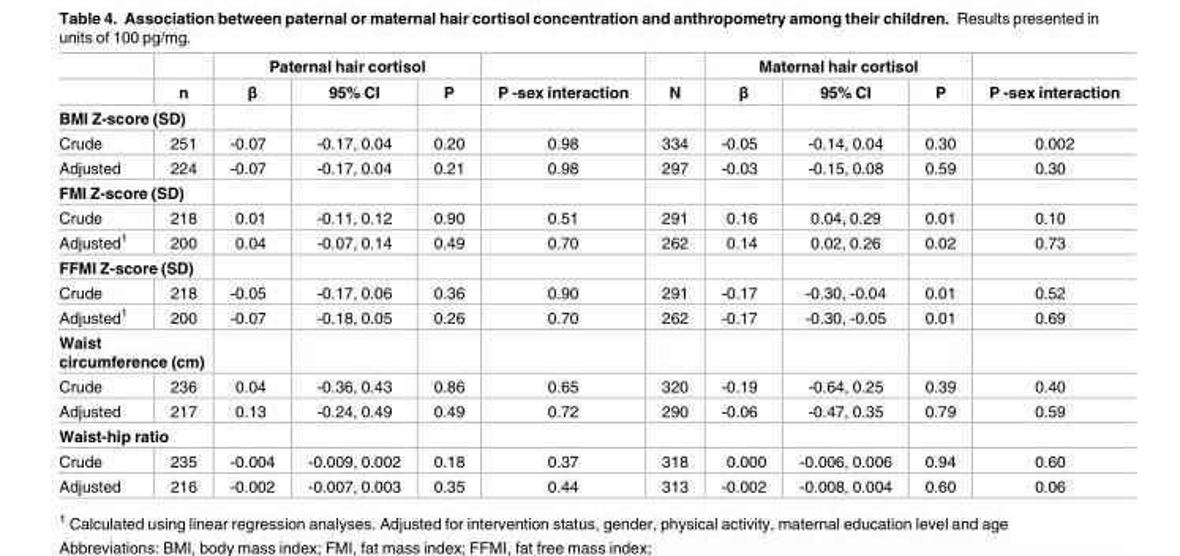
<table><thead><tr><td rowspan="2"></td><td rowspan="2">n</td><td colspan="3">Paternal hair cortisol</td><td rowspan="2">P -sex interaction</td><td rowspan="2">N</td><td colspan="3">Maternal hair cortisol</td><td rowspan="2">P -sex interaction</td></tr><tr><td>β</td><td>95% CI</td><td>P</td><td>β</td><td>95% CI</td><td>P</td></tr></thead><tbody><tr><td colspan="11">BMI Z-score (SD)</td></tr><tr><td>Crude</td><td>251</td><td>-0.07</td><td>-0.17, 0.04</td><td>0.20</td><td>0.98</td><td>334</td><td>-0.05</td><td>-0.14, 0.04</td><td>0.30</td><td>0.002</td></tr><tr><td>Adjusted</td><td>224</td><td>-0.07</td><td>-0.17, 0.04</td><td>0.21</td><td>0.98</td><td>297</td><td>-0.03</td><td>-0.15, 0.08</td><td>0.59</td><td>0.30</td></tr><tr><td colspan="11">FMI Z-score (SD)</td></tr><tr><td>Crude</td><td>218</td><td>0.01</td><td>-0.11, 0.12</td><td>0.90</td><td>0.51</td><td>291</td><td>0.16</td><td>0.04, 0.29</td><td>0.01</td><td>0.10</td></tr><tr><td>Adjusted<sup>1</sup></td><td>200</td><td>0.04</td><td>-0.07, 0.14</td><td>0.49</td><td>0.70</td><td>262</td><td>0.14</td><td>0.02, 0.26</td><td>0.02</td><td>0.73</td></tr><tr><td colspan="11">FFMI Z-score (SD)</td></tr><tr><td>Crude</td><td>218</td><td>-0.05</td><td>-0.17, 0.06</td><td>0.36</td><td>0.90</td><td>291</td><td>-0.17</td><td>-0.30, -0.04</td><td>0.01</td><td>0.52</td></tr><tr><td>Adjusted<sup>1</sup></td><td>200</td><td>-0.07</td><td>-0.18, 0.05</td><td>0.26</td><td>0.70</td><td>262</td><td>-0.17</td><td>-0.30, -0.05</td><td>0.01</td><td>0.69</td></tr><tr><td colspan="11">Waist circumference (cm)</td></tr><tr><td>Crude</td><td>236</td><td>0.04</td><td>-0.36, 0.43</td><td>0.86</td><td>0.65</td><td>320</td><td>-0.19</td><td>-0.64, 0.25</td><td>0.39</td><td>0.40</td></tr><tr><td>Adjusted</td><td>217</td><td>0.13</td><td>-0.24, 0.49</td><td>0.49</td><td>0.72</td><td>290</td><td>-0.06</td><td>-0.47, 0.35</td><td>0.79</td><td>0.59</td></tr><tr><td colspan="11">Waist-hip ratio</td></tr><tr><td>Crude</td><td>235</td><td>-0.004</td><td>-0.009, 0.002</td><td>0.18</td><td>0.37</td><td>318</td><td>0.000</td><td>-0.006, 0.006</td><td>0.94</td><td>0.60</td></tr><tr><td>Adjusted</td><td>216</td><td>-0.002</td><td>-0.007, 0.003</td><td>0.35</td><td>0.44</td><td>313</td><td>-0.002</td><td>-0.008, 0.004</td><td>0.60</td><td>0.06</td></tr></tbody></table>